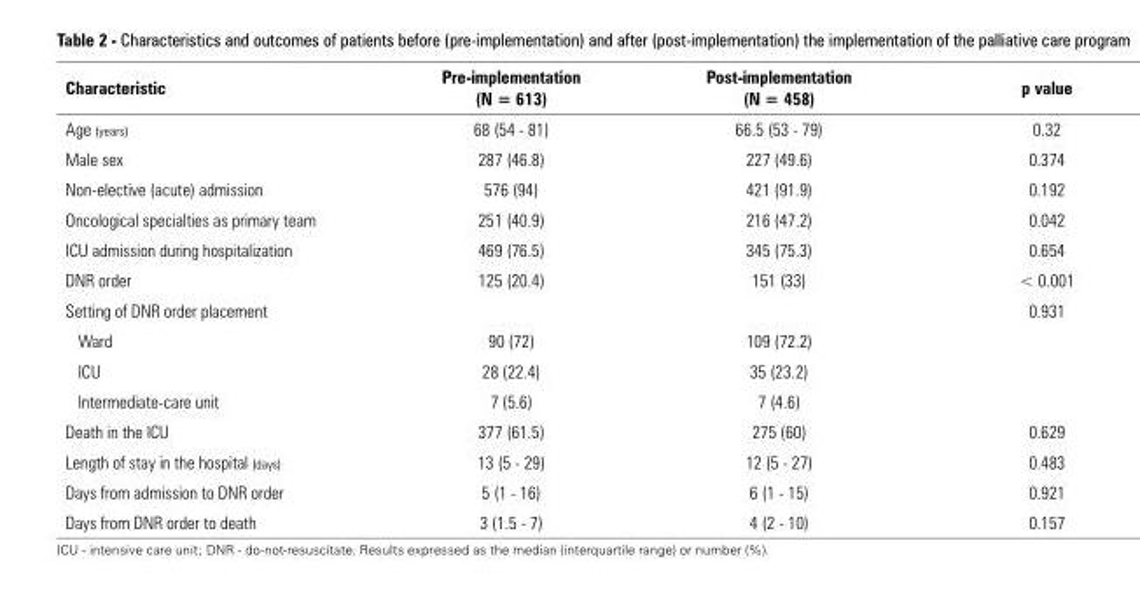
<table><thead><tr><td>Characteristic</td><td>Pre-implementation (N = 613)</td><td>Post-implementation (N = 458)</td><td>p value</td></tr></thead><tbody><tr><td>Age (years)</td><td>68 (54 - 81)</td><td>66.5 (53 - 79)</td><td>0.32</td></tr><tr><td>Male sex</td><td>287 (46.8)</td><td>227 (49.6)</td><td>0.374</td></tr><tr><td>Non-elective (acute) admission</td><td>576 (94)</td><td>421 (91.9)</td><td>0.192</td></tr><tr><td>Oncological specialties as primary team</td><td>251 (40.9)</td><td>216 (47.2)</td><td>0.042</td></tr><tr><td>ICU admission during hospitalization</td><td>469 (76.5)</td><td>345 (75.3)</td><td>0.654</td></tr><tr><td>DNR order</td><td>125 (20.4)</td><td>151 (33)</td><td>&lt; 0.001</td></tr><tr><td>Setting of DNR order placement</td><td></td><td></td><td>0.931</td></tr><tr><td>Ward</td><td>90 (72)</td><td>109 (72.2)</td><td></td></tr><tr><td>ICU</td><td>28 (22.4)</td><td>35 (23.2)</td><td></td></tr><tr><td>Intermediate-care unit</td><td>7 (5.6)</td><td>7 (4.6)</td><td></td></tr><tr><td>Death in the ICU</td><td>377 (61.5)</td><td>275 (60)</td><td>0.629</td></tr><tr><td>Length of stay in the hospital (days)</td><td>13 (5 - 29)</td><td>12 (5 - 27)</td><td>0.483</td></tr><tr><td>Days from admission to DNR order</td><td>5 (1 - 16)</td><td>6 (1 - 15)</td><td>0.921</td></tr><tr><td>Days from DNR order to death</td><td>3 (1.5 - 7)</td><td>4 (2 - 10)</td><td>0.157</td></tr></tbody></table>